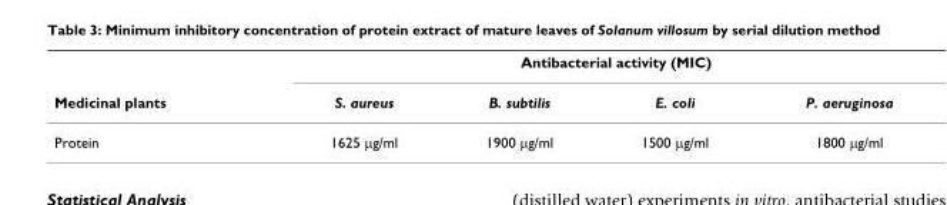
<table><thead><tr><td rowspan="2">Medicinal plants</td><td colspan="4">Antibacterial activity (MIC)</td></tr><tr><td>S. aureus</td><td>B. subtilis</td><td>E. coli</td><td>P. aeruginosa</td></tr></thead><tbody><tr><td>Protein</td><td>1625 μg/ml</td><td>1900 μg/ml</td><td>1500 μg/ml</td><td>1800 μg/ml</td></tr></tbody></table>